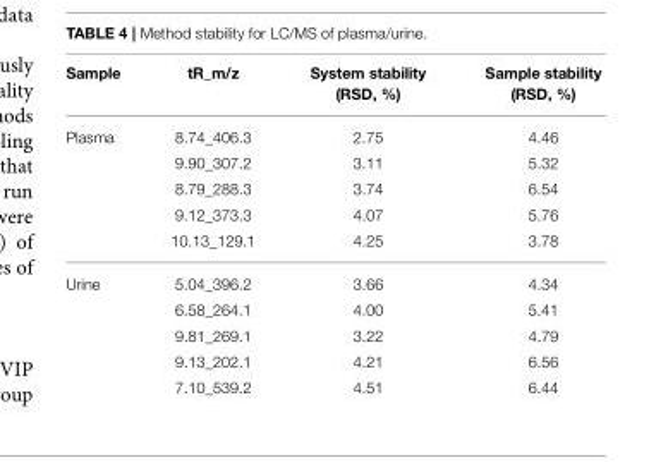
<table><thead><tr><td>Sample</td><td>tR_m/z</td><td>System stability (RSD, %)</td><td>Sample stability (RSD, %)</td></tr></thead><tbody><tr><td rowspan="5">Plasma</td><td>8.74_406.3</td><td>2.75</td><td>4.46</td></tr><tr><td>9.90_307.2</td><td>3.11</td><td>5.32</td></tr><tr><td>8.79_288.3</td><td>3.74</td><td>6.54</td></tr><tr><td>9.12_373.3</td><td>4.07</td><td>5.76</td></tr><tr><td>10.13_129.1</td><td>4.25</td><td>3.78</td></tr><tr><td rowspan="5">Urine</td><td>5.04_396.2</td><td>3.66</td><td>4.34</td></tr><tr><td>6.58_264.1</td><td>4.00</td><td>5.41</td></tr><tr><td>9.81_269.1</td><td>3.22</td><td>4.79</td></tr><tr><td>9.13_202.1</td><td>4.21</td><td>6.56</td></tr><tr><td>7.10_539.2</td><td>4.51</td><td>6.44</td></tr></tbody></table>